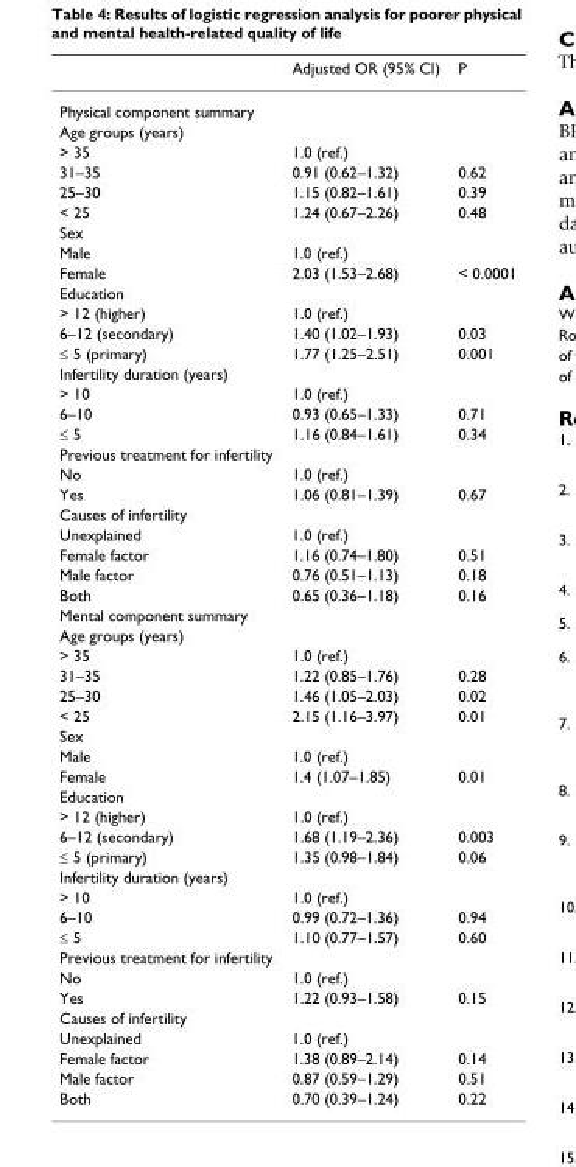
<table><thead><tr><td></td><td>Adjusted OR (95% CI)</td><td>P</td></tr></thead><tbody><tr><td colspan="3">Physical component summary</td></tr><tr><td colspan="3">Age groups (years)</td></tr><tr><td>&gt; 35</td><td>1.0 (ref.)</td><td></td></tr><tr><td>31–35</td><td>0.91 (0.62–1.32)</td><td>0.62</td></tr><tr><td>25–30</td><td>1.15 (0.82–1.61)</td><td>0.39</td></tr><tr><td>&lt; 25</td><td>1.24 (0.67–2.26)</td><td>0.48</td></tr><tr><td colspan="3">Sex</td></tr><tr><td>Male</td><td>1.0 (ref.)</td><td></td></tr><tr><td>Female</td><td>2.03 (1.53–2.68)</td><td>&lt; 0.0001</td></tr><tr><td colspan="3">Education</td></tr><tr><td>&gt; 12 (higher)</td><td>1.0 (ref.)</td><td></td></tr><tr><td>6–12 (secondary)</td><td>1.40 (1.02–1.93)</td><td>0.03</td></tr><tr><td>≤ 5 (primary)</td><td>1.77 (1.25–2.51)</td><td>0.001</td></tr><tr><td colspan="3">Infertility duration (years)</td></tr><tr><td>&gt; 10</td><td>1.0 (ref.)</td><td></td></tr><tr><td>6–10</td><td>0.93 (0.65–1.33)</td><td>0.71</td></tr><tr><td>≤ 5</td><td>1.16 (0.84–1.61)</td><td>0.34</td></tr><tr><td colspan="3">Previous treatment for infertility</td></tr><tr><td>No</td><td>1.0 (ref.)</td><td></td></tr><tr><td>Yes</td><td>1.06 (0.81–1.39)</td><td>0.67</td></tr><tr><td colspan="3">Causes of infertility</td></tr><tr><td>Unexplained</td><td>1.0 (ref.)</td><td></td></tr><tr><td>Female factor</td><td>1.16 (0.74–1.80)</td><td>0.51</td></tr><tr><td>Male factor</td><td>0.76 (0.51–1.13)</td><td>0.18</td></tr><tr><td>Both</td><td>0.65 (0.36–1.18)</td><td>0.16</td></tr><tr><td colspan="3">Mental component summary</td></tr><tr><td colspan="3">Age groups (years)</td></tr><tr><td>&gt; 35</td><td>1.0 (ref.)</td><td></td></tr><tr><td>31–35</td><td>1.22 (0.85–1.76)</td><td>0.28</td></tr><tr><td>25–30</td><td>1.46 (1.05–2.03)</td><td>0.02</td></tr><tr><td>&lt; 25</td><td>2.15 (1.16–3.97)</td><td>0.01</td></tr><tr><td colspan="3">Sex</td></tr><tr><td>Male</td><td>1.0 (ref.)</td><td></td></tr><tr><td>Female</td><td>1.4 (1.07–1.85)</td><td>0.01</td></tr><tr><td colspan="3">Education</td></tr><tr><td>&gt; 12 (higher)</td><td>1.0 (ref.)</td><td></td></tr><tr><td>6–12 (secondary)</td><td>1.68 (1.19–2.36)</td><td>0.003</td></tr><tr><td>≤ 5 (primary)</td><td>1.35 (0.98–1.84)</td><td>0.06</td></tr><tr><td colspan="3">Infertility duration (years)</td></tr><tr><td>&gt; 10</td><td>1.0 (ref.)</td><td></td></tr><tr><td>6–10</td><td>0.99 (0.72–1.36)</td><td>0.94</td></tr><tr><td>≤ 5</td><td>1.10 (0.77–1.57)</td><td>0.60</td></tr><tr><td colspan="3">Previous treatment for infertility</td></tr><tr><td>No</td><td>1.0 (ref.)</td><td></td></tr><tr><td>Yes</td><td>1.22 (0.93–1.58)</td><td>0.15</td></tr><tr><td colspan="3">Causes of infertility</td></tr><tr><td>Unexplained</td><td>1.0 (ref.)</td><td></td></tr><tr><td>Female factor</td><td>1.38 (0.89–2.14)</td><td>0.14</td></tr><tr><td>Male factor</td><td>0.87 (0.59–1.29)</td><td>0.51</td></tr><tr><td>Both</td><td>0.70 (0.39–1.24)</td><td>0.22</td></tr></tbody></table>